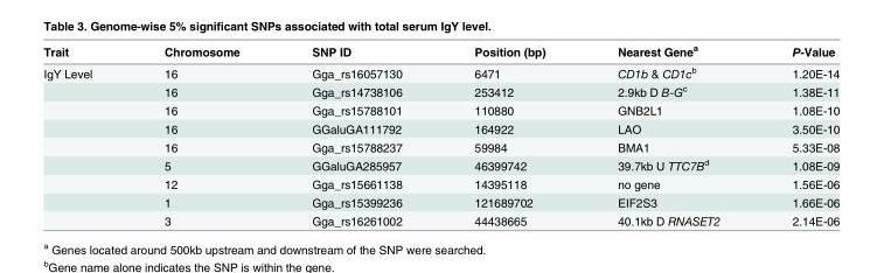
<table><thead><tr><td>Trait</td><td>Chromosome</td><td>SNP ID</td><td>Position (bp)</td><td>Nearest Gene<sup>a</sup></td><td>P-Value</td></tr></thead><tbody><tr><td rowspan="9">IgY Level</td><td>16</td><td>Gga_rs16057130</td><td>6471</td><td>CD1b &amp; CD1c<sup>b</sup></td><td>1.20E-14</td></tr><tr><td>16</td><td>Gga_rs14738106</td><td>253412</td><td>2.9kb D B-G<sup>c</sup></td><td>1.38E-11</td></tr><tr><td>16</td><td>Gga_rs15788101</td><td>110880</td><td>GNB2L1</td><td>1.08E-10</td></tr><tr><td>16</td><td>GGaluGA111792</td><td>164922</td><td>LAO</td><td>3.50E-10</td></tr><tr><td>16</td><td>Gga_rs15788237</td><td>59984</td><td>BMA1</td><td>5.33E-08</td></tr><tr><td>5</td><td>GGaluGA285957</td><td>46399742</td><td>39.7kb U TTC7B<sup>d</sup></td><td>1.08E-09</td></tr><tr><td>12</td><td>Gga_rs15661138</td><td>14395118</td><td>no gene</td><td>1.56E-06</td></tr><tr><td>1</td><td>Gga_rs15399236</td><td>121689702</td><td>EIF2S3</td><td>1.66E-06</td></tr><tr><td>3</td><td>Gga_rs16261002</td><td>44438665</td><td>40.1kb D RNASET2</td><td>2.14E-06</td></tr></tbody></table>